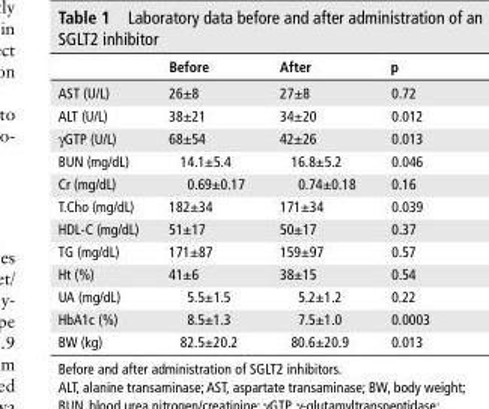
<table><thead><tr><td></td><td>before</td><td>After</td><td>p</td></tr></thead><tbody><tr><td>AST (U/L)</td><td>26±8</td><td>27±8</td><td>0.72</td></tr><tr><td>ALT (U/L)</td><td>38±21</td><td>34±20</td><td>0.012</td></tr><tr><td>γGTP (U/L)</td><td>68±54</td><td>42±26</td><td>0.013</td></tr><tr><td>BUN (mg/dL)</td><td>14.1±5.4</td><td>16.8±5.2</td><td>0.046</td></tr><tr><td>Cr (mg/dL)</td><td>0.69±0.17</td><td>0.74±0.18</td><td>0.16</td></tr><tr><td>T.Cho (mg/dL)</td><td>182±34</td><td>171±34</td><td>0.039</td></tr><tr><td>HDL-C (mg/dL)</td><td>51±17</td><td>50±17</td><td>0.37</td></tr><tr><td>TG (mg/dL)</td><td>171±87</td><td>159±97</td><td>0.57</td></tr><tr><td>Ht (%)</td><td>41±6</td><td>38±15</td><td>0.54</td></tr><tr><td>UA (mg/dL)</td><td>5.5±1.5</td><td>5.2±1.2</td><td>0.22</td></tr><tr><td>HbA1c (%)</td><td>8.5±1.3</td><td>7.5±1.0</td><td>0.0003</td></tr><tr><td>BW (kg)</td><td>82.5±20.2</td><td>80.6±20.9</td><td>0.013</td></tr></tbody></table>